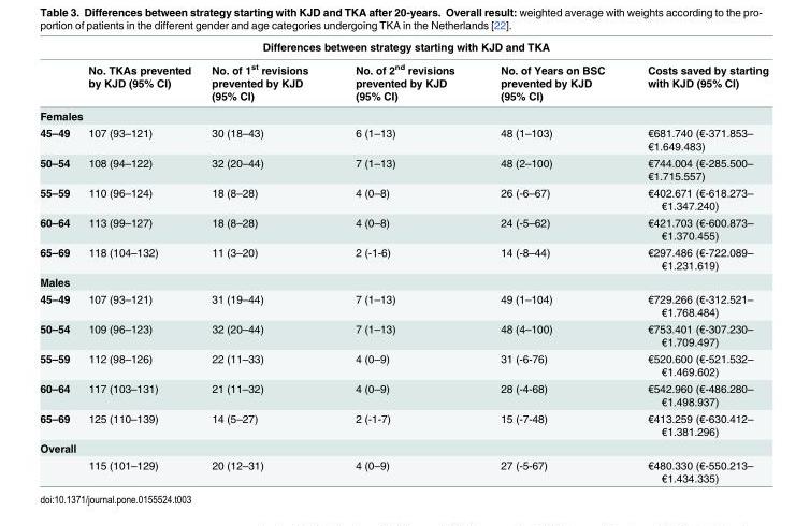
<table><thead><tr><td colspan="6">Differences between strategy starting with KJD and TKA</td></tr><tr><td></td><td>No. TKAs prevented by KJD (95% CI)</td><td>No. of 1<sup>st</sup> revisions prevented by KJD (95% CI)</td><td>No. of 2<sup>nd</sup> revisions prevented by KJD (95% CI)</td><td>No. of Years on BSC prevented by KJD (95% CI)</td><td>Costs saved by starting with KJD (95% CI)</td></tr></thead><tbody><tr><td colspan="6">Females</td></tr><tr><td>45–49</td><td>107 (93–121)</td><td>30 (18–43)</td><td>6 (1–13)</td><td>48 (1–103)</td><td>€681.740 (€-371.853– €1.649.483)</td></tr><tr><td>50–54</td><td>108 (94–122)</td><td>32 (20–44)</td><td>7 (1–13)</td><td>48 (2–100)</td><td>€744.004 (€-285.500– €1.715.557)</td></tr><tr><td>55–59</td><td>110 (96–124)</td><td>18 (8–28)</td><td>4 (0–8)</td><td>26 (-6–67)</td><td>€402.671 (€-618.273– €1.347.240)</td></tr><tr><td>60–64</td><td>113 (99–127)</td><td>18 (8–28)</td><td>4 (0–8)</td><td>24 (-5–62)</td><td>€421.703 (€-600.873– €1.370.455)</td></tr><tr><td>65–69</td><td>118 (104–132)</td><td>11 (3–20)</td><td>2 (-1-6)</td><td>14 (-8–44)</td><td>€297.486 (€-722.089– €1.231.619)</td></tr><tr><td colspan="6">Males</td></tr><tr><td>45–49</td><td>107 (93–121)</td><td>31 (19–44)</td><td>7 (1–13)</td><td>49 (1–104)</td><td>€729.266 (€-312.521– €1.768.484)</td></tr><tr><td>50–54</td><td>109 (96–123)</td><td>32 (20–44)</td><td>7 (1–13)</td><td>48 (4–100)</td><td>€753.401 (€-307.230– €1.709.497)</td></tr><tr><td>55–59</td><td>112 (98–126)</td><td>22 (11–33)</td><td>4 (0–9)</td><td>31 (-6-76)</td><td>€520.600 (€-521.532– €1.469.602)</td></tr><tr><td>60–64</td><td>117 (103–131)</td><td>21 (11–32)</td><td>4 (0–9)</td><td>28 (-4-68)</td><td>€542.960 (€-486.280– €1.498.937)</td></tr><tr><td>65–69</td><td>125 (110–139)</td><td>14 (5–27)</td><td>2 (-1-7)</td><td>15 (-7-48)</td><td>€413.259 (€-630.412– €1.381.296)</td></tr><tr><td colspan="6">Overall</td></tr><tr><td></td><td>115 (101–129)</td><td>20 (12–31)</td><td>4 (0–9)</td><td>27 (-5-67)</td><td>€480.330 (€-550.213– €1.434.335)</td></tr></tbody></table>